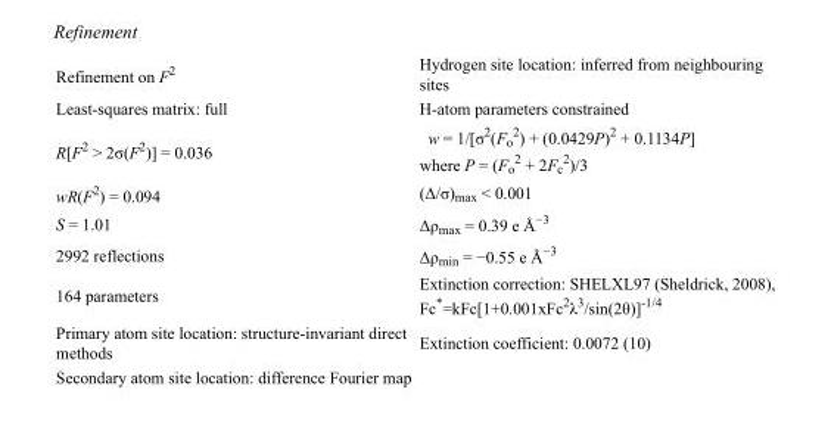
<table><tbody><tr><td>Refinement on F<sup>2</sup></td><td>Hydrogen site location: inferred from neighbouring sites</td></tr><tr><td>Least-squares matrix: full</td><td>H-atom parameters constrained</td></tr><tr><td>R[F<sup>2</sup> &gt; 2σ(F<sup>2</sup>)] = 0.036</td><td>w = 1/[σ<sup>2</sup>(F<sub>o</sub> <sup>2</sup>) + (0.0429P)<sup>2</sup> + 0.1134P] where P = (F<sub>o</sub> <sup>2</sup> + 2F<sub>c</sub> <sup>2</sup>)/3</td></tr><tr><td>wR(F<sup>2</sup>) = 0.094</td><td>(Δ/σ)<sub>max</sub> &lt; 0.001</td></tr><tr><td>S = 1.01</td><td>Δρ<sub>max</sub> = 0.39 e Å<sup>−3</sup></td></tr><tr><td>2992 reflections</td><td>Δρ<sub>min</sub> = −0.55 e Å<sup>−3</sup></td></tr><tr><td>164 parameters</td><td>Extinction correction: SHELXL97 (Sheldrick, 2008), Fc*=kFc[1+0.001xFc<sup>2</sup>λ<sup>3</sup>/sin(2θ)]<sup>-1/4</sup></td></tr><tr><td>Primary atom site location: structure-invariant direct methods</td><td>Extinction coefficient: 0.0072 (10)</td></tr><tr><td>Secondary atom site location: difference Fourier map</td><td></td></tr></tbody></table>